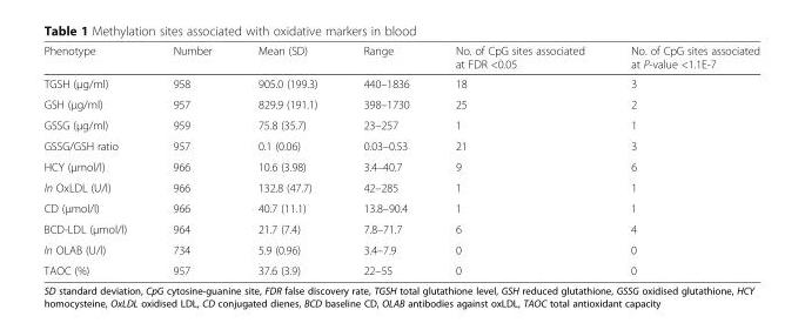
<table><thead><tr><td>Phenotype</td><td>Number</td><td>Mean (SD)</td><td>Range</td><td>No. of CpG sites associated at FDR &lt;0.05</td><td>No. of CpG sites associated at P-value &lt;1.1E-7</td></tr></thead><tbody><tr><td>TGSH (μg/ml)</td><td>958</td><td>905.0 (199.3)</td><td>440–1836</td><td>18</td><td>3</td></tr><tr><td>GSH (μg/ml)</td><td>957</td><td>829.9 (191.1)</td><td>398–1730</td><td>25</td><td>2</td></tr><tr><td>GSSG (μg/ml)</td><td>959</td><td>75.8 (35.7)</td><td>23–257</td><td>1</td><td>1</td></tr><tr><td>GSSG/GSH ratio</td><td>957</td><td>0.1 (0.06)</td><td>0.03–0.53</td><td>21</td><td>3</td></tr><tr><td>HCY (μmol/l)</td><td>966</td><td>10.6 (3.98)</td><td>3.4–40.7</td><td>9</td><td>6</td></tr><tr><td>ln OxLDL (U/l)</td><td>966</td><td>132.8 (47.7)</td><td>42–285</td><td>1</td><td>1</td></tr><tr><td>CD (μmol/l)</td><td>966</td><td>40.7 (11.1)</td><td>13.8–90.4</td><td>1</td><td>1</td></tr><tr><td>BCD-LDL (μmol/l)</td><td>964</td><td>21.7 (7.4)</td><td>7.8–71.7</td><td>6</td><td>4</td></tr><tr><td>ln OLAB (U/l)</td><td>734</td><td>5.9 (0.96)</td><td>3.4–7.9</td><td>0</td><td>0</td></tr><tr><td>TAOC (%)</td><td>957</td><td>37.6 (3.9)</td><td>22–55</td><td>0</td><td>0</td></tr></tbody></table>